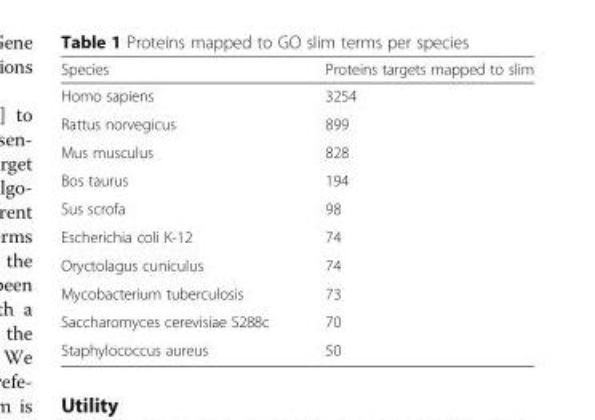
<table><thead><tr><td>Species</td><td>Proteins targets mapped to slim</td></tr></thead><tbody><tr><td>Homo sapiens</td><td>3254</td></tr><tr><td>Rattus norvegicus</td><td>899</td></tr><tr><td>Mus musculus</td><td>828</td></tr><tr><td>Bos taurus</td><td>194</td></tr><tr><td>Sus scrofa</td><td>98</td></tr><tr><td>Escherichia coli K-12</td><td>74</td></tr><tr><td>Oryctolagus cuniculus</td><td>74</td></tr><tr><td>Mycobacterium tuberculosis</td><td>73</td></tr><tr><td>Saccharomyces cerevisiae S288c</td><td>70</td></tr><tr><td>Staphylococcus aureus</td><td>50</td></tr></tbody></table>